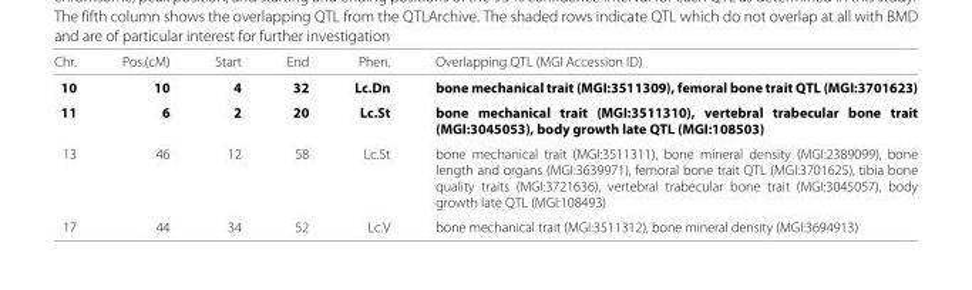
<table><thead><tr><td>Chr.</td><td>Pos.(cM)</td><td>Start</td><td>End</td><td>Phen.</td><td>Overlapping QTL (MGI Accession ID)</td></tr></thead><tbody><tr><td>10</td><td>10</td><td>4</td><td>32</td><td>Lc.Dn</td><td>bone mechanical trait (MGI:3511309), femoral bone trait QTL (MGI:3701623)</td></tr><tr><td>11</td><td>6</td><td>2</td><td>20</td><td>Lc.St</td><td>bone mechanical trait (MGI:3511310), vertebral trabecular bone trait (MGI:3045053), body growth late QTL (MGI:108503)</td></tr><tr><td>13</td><td>46</td><td>12</td><td>58</td><td>Lc.St</td><td>bone mechanical trait (MGI:3511311), bone mineral density (MGI:2389099), bone length and organs (MGI:3639971), femoral bone trait QTL (MGI:3701625), tibia bone quality traits (MGI:3721636), vertebral trabecular bone trait (MGI:3045057), body growth late QTL (MGI:108493)</td></tr><tr><td>17</td><td>44</td><td>34</td><td>52</td><td>Lc.V</td><td>bone mechanical trait (MGI:3511312), bone mineral density (MGI:3694913)</td></tr></tbody></table>